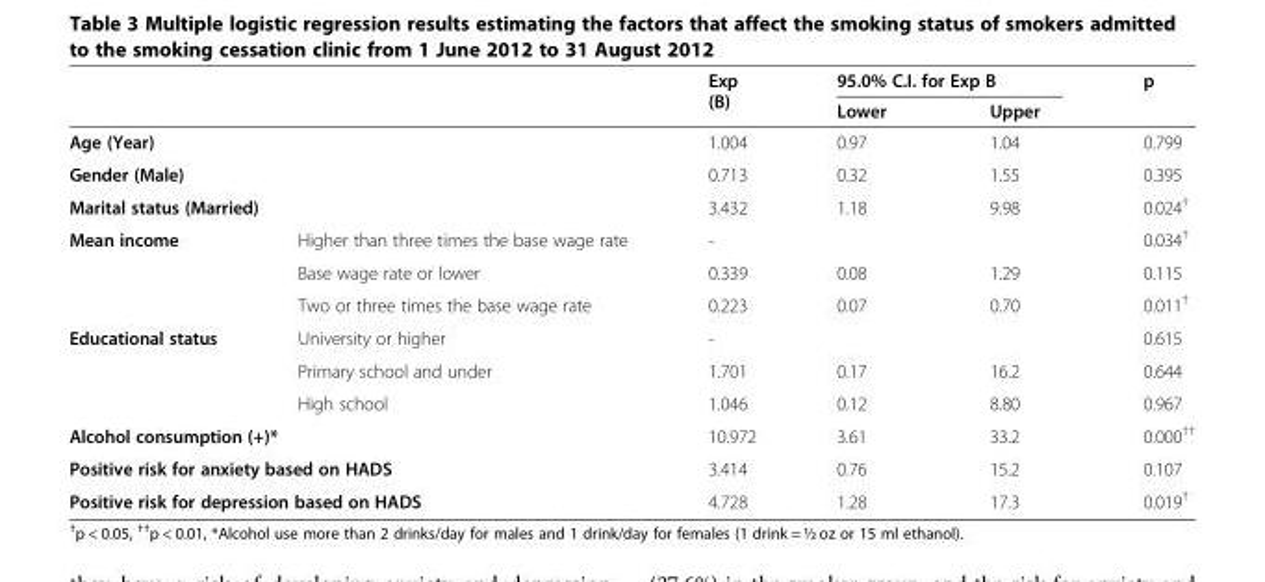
<table><thead><tr><td rowspan="2"></td><td rowspan="2"></td><td rowspan="2">Exp (B)</td><td colspan="2">95.0% C.I. for Exp B</td><td rowspan="2">p</td></tr><tr><td>Lower</td><td>Upper</td></tr></thead><tbody><tr><td colspan="2">Age (Year)</td><td>1.004</td><td>0.97</td><td>1.04</td><td>0.799</td></tr><tr><td colspan="2">Gender (Male)</td><td>0.713</td><td>0.32</td><td>1.55</td><td>0.395</td></tr><tr><td colspan="2">Marital status (Married)</td><td>3.432</td><td>1.18</td><td>9.98</td><td>0.024<sup>†</sup></td></tr><tr><td rowspan="3">Mean income</td><td>Higher than three times the base wage rate</td><td>-</td><td></td><td></td><td>0.034<sup>†</sup></td></tr><tr><td>Base wage rate or lower</td><td>0.339</td><td>0.08</td><td>1.29</td><td>0.115</td></tr><tr><td>Two or three times the base wage rate</td><td>0.223</td><td>0.07</td><td>0.70</td><td>0.011<sup>†</sup></td></tr><tr><td rowspan="3">Educational status</td><td>University or higher</td><td>-</td><td></td><td></td><td>0.615</td></tr><tr><td>Primary school and under</td><td>1.701</td><td>0.17</td><td>16.2</td><td>0.644</td></tr><tr><td>High school</td><td>1.046</td><td>0.12</td><td>8.80</td><td>0.967</td></tr><tr><td colspan="2">Alcohol consumption (+)*</td><td>10.972</td><td>3.61</td><td>33.2</td><td>0.000<sup>††</sup></td></tr><tr><td colspan="2">Positive risk for anxiety based on HADS</td><td>3.414</td><td>0.76</td><td>15.2</td><td>0.107</td></tr><tr><td colspan="2">Positive risk for depression based on HADS</td><td>4.728</td><td>1.28</td><td>17.3</td><td>0.019<sup>†</sup></td></tr></tbody></table>